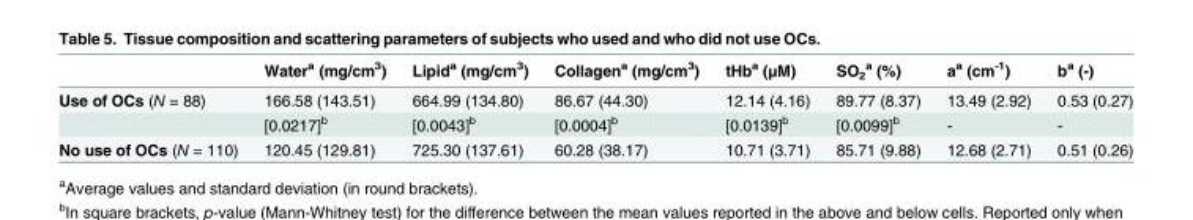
<table><thead><tr><td></td><td>Water<sup>a</sup> (mg/cm<sup>3</sup>)</td><td>Lipid<sup>a</sup> (mg/cm<sup>3</sup>)</td><td>Collagen<sup>a</sup> (mg/cm<sup>3</sup>)</td><td>tHb<sup>a</sup> (μM)</td><td>SO<sub>2</sub> <sup>a</sup> (%)</td><td>a<sup>a</sup> (cm<sup>-1</sup>)</td><td>b<sup>a</sup> (-)</td></tr></thead><tbody><tr><td rowspan="2">Use of OCs (N = 88)</td><td>166.58 (143.51)</td><td>664.99 (134.80)</td><td>86.67 (44.30)</td><td>12.14 (4.16)</td><td>89.77 (8.37)</td><td>13.49 (2.92)</td><td>0.53 (0.27)</td></tr><tr><td>[0.0217]<sup>b</sup></td><td>[0.0043]<sup>b</sup></td><td>[0.0004]<sup>b</sup></td><td>[0.0139]<sup>b</sup></td><td>[0.0099]<sup>b</sup></td><td>-</td><td>-</td></tr><tr><td>No use of OCs (N = 110)</td><td>120.45 (129.81)</td><td>725.30 (137.61)</td><td>60.28 (38.17)</td><td>10.71 (3.71)</td><td>85.71 (9.88)</td><td>12.68 (2.71)</td><td>0.51 (0.26)</td></tr></tbody></table>